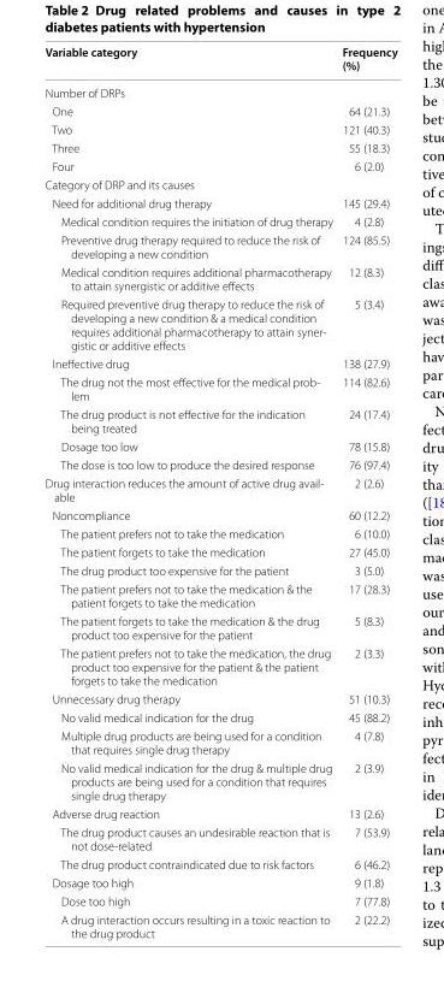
<table><thead><tr><td>Variable category</td><td>Frequency (%)</td></tr></thead><tbody><tr><td colspan="2">Number of DRPs</td></tr><tr><td>One</td><td>64 (21.3)</td></tr><tr><td>Two</td><td>121 (40.3)</td></tr><tr><td>Three</td><td>55 (18.3)</td></tr><tr><td>Four</td><td>6 (2.0)</td></tr><tr><td colspan="2">Category of DRP and its causes</td></tr><tr><td>Need for additional drug therapy</td><td>145 (29.4)</td></tr><tr><td>Medical condition requires the initiation of drug therapy</td><td>4 (2.8)</td></tr><tr><td>Preventive drug therapy required to reduce the risk of developing a new condition</td><td>124 (85.5)</td></tr><tr><td>Medical condition requires additional pharmacotherapy to attain synergistic or additive effects</td><td>12 (8.3)</td></tr><tr><td>Required preventive drug therapy to reduce the risk of developing a new condition &amp; a medical condition requires additional pharmacotherapy to attain syner- gistic or additive effects</td><td>5 (3.4)</td></tr><tr><td>Ineffective drug</td><td>138 (27.9)</td></tr><tr><td>The drug not the most effective for the medical prob- lem</td><td>114 (82.6)</td></tr><tr><td>The drug product is not effective for the indication being treated</td><td>24 (17.4)</td></tr><tr><td>Dosage too low</td><td>78 (15.8)</td></tr><tr><td>The dose is too low to produce the desired response</td><td>76 (97.4)</td></tr><tr><td>Drug interaction reduces the amount of active drug avail- able</td><td>2 (2.6)</td></tr><tr><td>Noncompliance</td><td>60 (12.2)</td></tr><tr><td>The patient prefers not to take the medication</td><td>6 (10.0)</td></tr><tr><td>The patient forgets to take the medication</td><td>27 (45.0)</td></tr><tr><td>The drug product too expensive for the patient</td><td>3 (5.0)</td></tr><tr><td>The patient prefers not to take the medication &amp; the patient forgets to take the medication</td><td>17 (28.3)</td></tr><tr><td>The patient forgets to take the medication &amp; the drug product too expensive for the patient</td><td>5 (8.3)</td></tr><tr><td>The patient prefers not to take the medication, the drug product too expensive for the patient &amp; the patient forgets to take the medication</td><td>2 (3.3)</td></tr><tr><td>Unnecessary drug therapy</td><td>51 (10.3)</td></tr><tr><td>No valid medical indication for the drug</td><td>45 (88.2)</td></tr><tr><td>Multiple drug products are being used for a condition that requires single drug therapy</td><td>4 (7.8)</td></tr><tr><td>No valid medical indication for the drug &amp; multiple drug products are being used for a condition that requires single drug therapy</td><td>2 (3.9)</td></tr><tr><td>Adverse drug reaction</td><td>13 (2.6)</td></tr><tr><td>The drug product causes an undesirable reaction that is not dose-related</td><td>7 (53.9)</td></tr><tr><td>The drug product contraindicated due to risk factors</td><td>6 (46.2)</td></tr><tr><td>Dosage too high</td><td>9 (1.8)</td></tr><tr><td>Dose too high</td><td>7 (77.8)</td></tr><tr><td>A drug interaction occurs resulting in a toxic reaction to the drug product</td><td>2 (22.2)</td></tr></tbody></table>